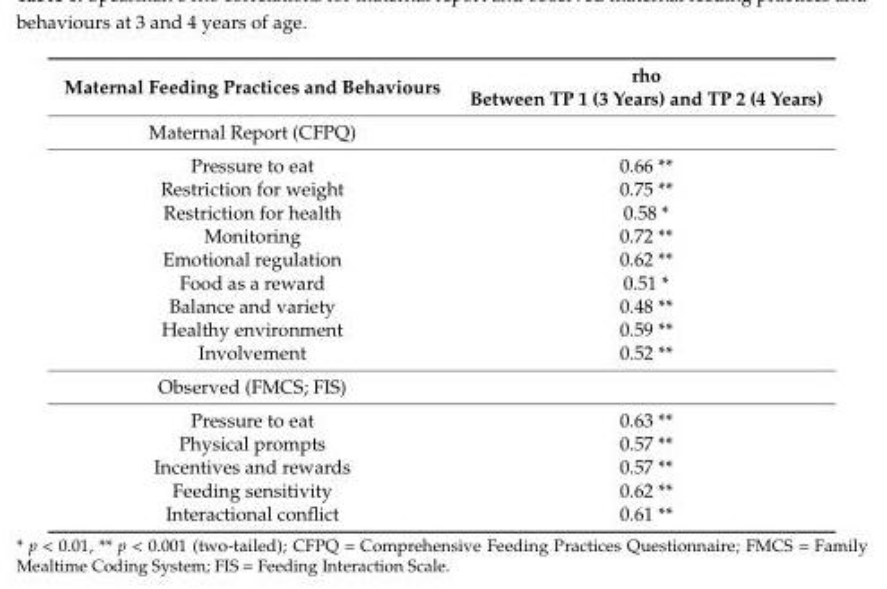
<table><thead><tr><td>Maternal Feeding Practices and Behaviours</td><td>rho Between TP 1 (3 Years) and TP 2 (4 Years)</td></tr></thead><tbody><tr><td colspan="2">Maternal Report (CFPQ)</td></tr><tr><td>Pressure to eat</td><td>0.66 **</td></tr><tr><td>Restriction for weight</td><td>0.75 **</td></tr><tr><td>Restriction for health</td><td>0.58 *</td></tr><tr><td>Monitoring</td><td>0.72 **</td></tr><tr><td>Emotional regulation</td><td>0.62 **</td></tr><tr><td>Food as a reward</td><td>0.51 *</td></tr><tr><td>Balance and variety</td><td>0.48 **</td></tr><tr><td>Healthy environment</td><td>0.59 **</td></tr><tr><td>Involvement</td><td>0.52 **</td></tr><tr><td colspan="2">Observed (FMCS; FIS)</td></tr><tr><td>Pressure to eat</td><td>0.63 **</td></tr><tr><td>Physical prompts</td><td>0.57 **</td></tr><tr><td>Incentives and rewards</td><td>0.57 **</td></tr><tr><td>Feeding sensitivity</td><td>0.62 **</td></tr><tr><td>Interactional conflict</td><td>0.61 **</td></tr></tbody></table>